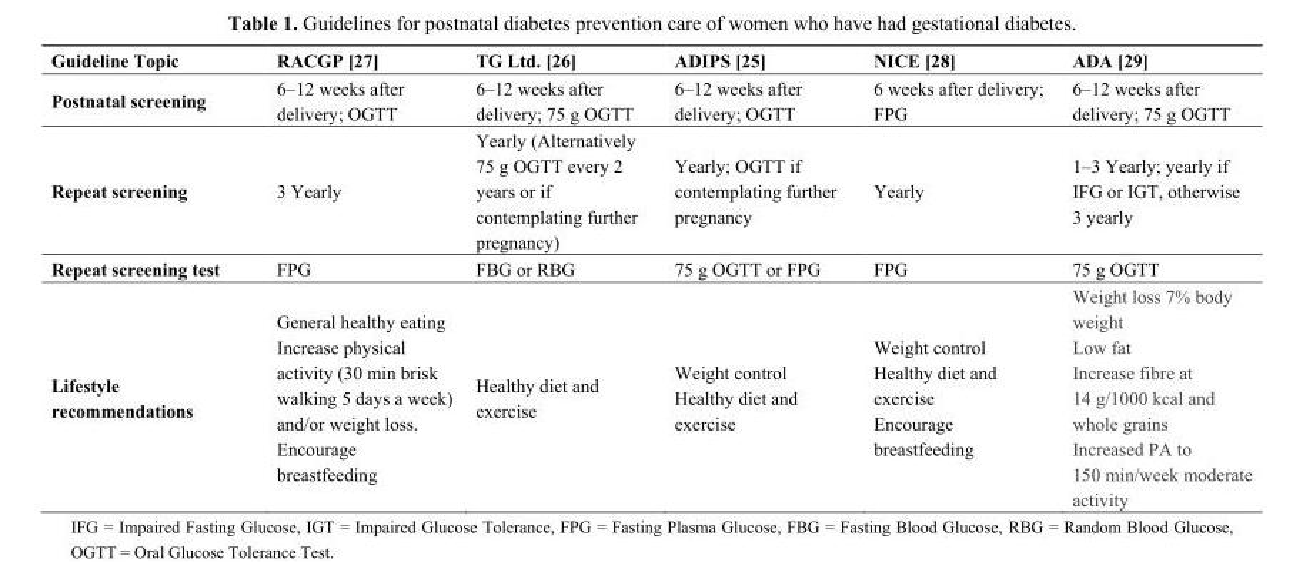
<table><thead><tr><td>Guideline Topic</td><td>RACGP [27]</td><td>TG Ltd. [26]</td><td>ADIPS [25]</td><td>NICE [28]</td><td>ADA [29]</td></tr></thead><tbody><tr><td>Postnatal screening</td><td>6–12 weeks after delivery; OGTT</td><td>6–12 weeks after delivery; 75 g OGTT</td><td>6–12 weeks after delivery; OGTT</td><td>6 weeks after delivery; FPG</td><td>6–12 weeks after delivery; 75 g OGTT</td></tr><tr><td>Repeat screening</td><td>3 Yearly</td><td>Yearly (Alternatively 75 g OGTT every 2 years or if contemplating further pregnancy)</td><td>Yearly; OGTT if contemplating further pregnancy</td><td>Yearly</td><td>1–3 Yearly; yearly if IFG or IGT, otherwise 3 yearly</td></tr><tr><td>Repeat screening test</td><td>FPG</td><td>FBG or RBG</td><td>75 g OGTT or FPG</td><td>FPG</td><td>75 g OGTT</td></tr><tr><td>Lifestyle recommendations</td><td>General healthy eating Increase physical activity (30 min brisk walking 5 days a week) and/or weight loss. Encourage breastfeeding</td><td>Healthy diet and exercise</td><td>Weight control Healthy diet and exercise</td><td>Weight control Healthy diet and exercise Encourage breastfeeding</td><td>Weight loss 7% body weight Low fat Increase fibre at 14 g/1000 kcal and whole grains Increased PA to 150 min/week moderate activity</td></tr></tbody></table>